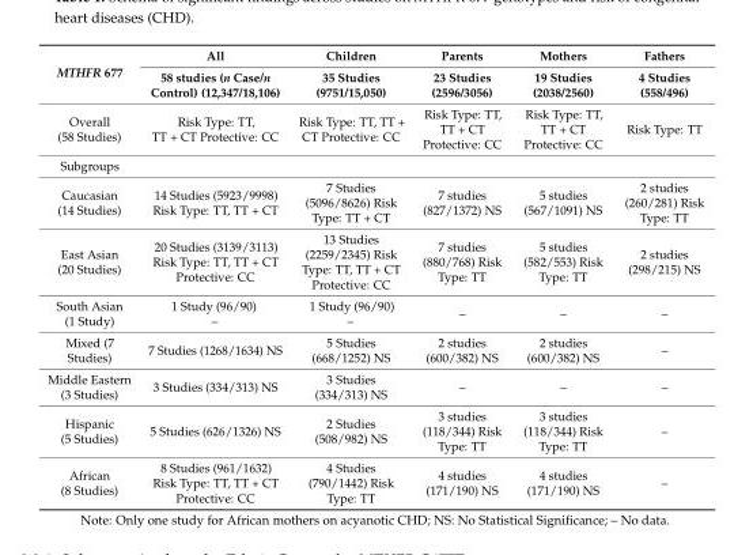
<table><thead><tr><td rowspan="2">MTHFR 677</td><td rowspan="2">All 58 studies (n Case/n Control) (12,347/18,106)</td><td rowspan="2">Children 35 Studies (9751/15,050)</td><td rowspan="2">Parents 23 Studies (2596/3056)</td><td rowspan="2">Mothers 19 Studies (2038/2560)</td><td rowspan="2">Fathers 4 Studies (558/496)</td></tr><tr></tr></thead><tbody><tr><td>Overall (58 Studies)</td><td>Risk Type: TT, TT + CT Protective: CC</td><td>Risk Type: TT, TT + CT Protective: CC</td><td>Risk Type: TT, TT + CT Protective: CC</td><td>Risk Type: TT, TT + CT Protective: CC</td><td>Risk Type: TT</td></tr><tr><td colspan="6">Subgroups</td></tr><tr><td>Caucasian (14 Studies)</td><td>14 Studies (5923/9998) Risk Type: TT, TT + CT</td><td>7 Studies (5096/8626) Risk Type: TT + CT</td><td>7 studies (827/1372) NS</td><td>5 studies (567/1091) NS</td><td>2 studies (260/281) Risk Type: TT</td></tr><tr><td>East Asian (20 Studies)</td><td>20 Studies (3139/3113) Risk Type: TT, TT + CT Protective: CC</td><td>13 Studies (2259/2345) Risk Type: TT, TT + CT Protective: CC</td><td>7 studies (880/768) Risk Type: TT</td><td>5 studies (582/553) Risk Type: TT</td><td>2 studies (298/215) NS</td></tr><tr><td>South Asian (1 Study)</td><td>1 Study (96/90) –</td><td>1 Study (96/90) –</td><td>–</td><td>–</td><td>–</td></tr><tr><td>Mixed (7 Studies)</td><td>7 Studies (1268/1634) NS</td><td>5 Studies (668/1252) NS</td><td>2 studies (600/382) NS</td><td>2 studies (600/382) NS</td><td>–</td></tr><tr><td>Middle Eastern (3 Studies)</td><td>3 Studies (334/313) NS</td><td>3 Studies (334/313) NS</td><td>–</td><td>–</td><td>–</td></tr><tr><td>Hispanic (5 Studies)</td><td>5 Studies (626/1326) NS</td><td>2 Studies (508/982) NS</td><td>3 studies (118/344) Risk Type: TT</td><td>3 studies (118/344) Risk Type: TT</td><td>–</td></tr><tr><td>African (8 Studies)</td><td>8 Studies (961/1632) Risk Type: TT, TT + CT Protective: CC</td><td>4 Studies (790/1442) Risk Type: TT</td><td>4 studies (171/190) NS</td><td>4 studies (171/190) NS</td><td>–</td></tr></tbody></table>